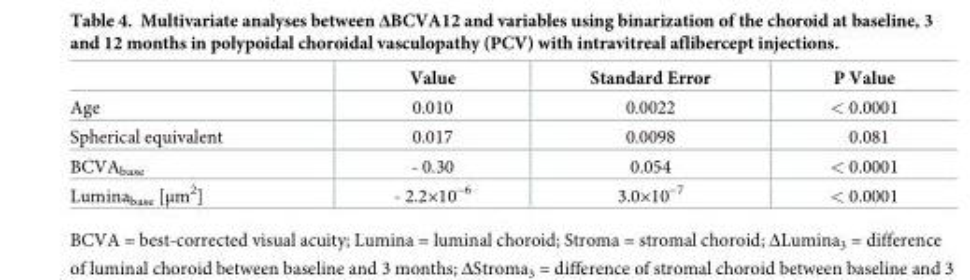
<table><thead><tr><td></td><td>Value</td><td>Standard Error</td><td>P Value</td></tr></thead><tbody><tr><td>Age</td><td>0.010</td><td>0.0022</td><td>&lt; 0.0001</td></tr><tr><td>Spherical equivalent</td><td>0.017</td><td>0.0098</td><td>0.081</td></tr><tr><td>BCVA<sub>base</sub></td><td>- 0.30</td><td>0.054</td><td>&lt; 0.0001</td></tr><tr><td>Lumina<sub>base</sub> [μm<sup>2</sup>]</td><td>- 2.2×10<sup>−6</sup></td><td>3.0×10<sup>−7</sup></td><td>&lt; 0.0001</td></tr></tbody></table>